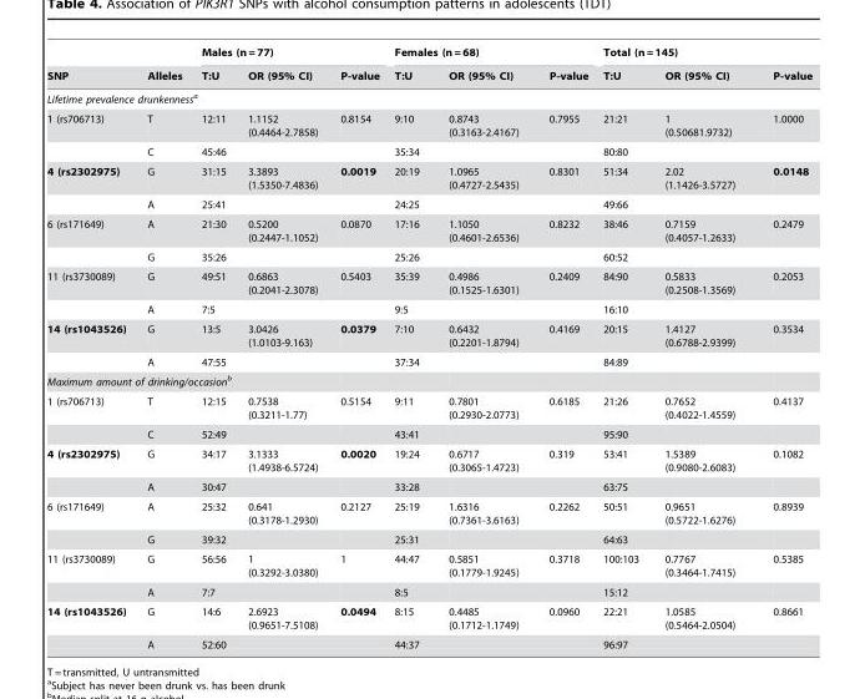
<table><thead><tr><td rowspan="2">SNP</td><td rowspan="2">Alleles</td><td colspan="3">Males (n = 77)</td><td colspan="3">Females (n = 68)</td><td colspan="3">Total (n = 145)</td></tr><tr><td>T:U</td><td>OR (95% CI)</td><td>P-value</td><td>T:U</td><td>OR (95% CI)</td><td>P-value</td><td>T:U</td><td>OR (95% CI)</td><td>P-value</td></tr></thead><tbody><tr><td colspan="11">Lifetime prevalence drunkennessa</td></tr><tr><td rowspan="2">1 (rs706713)</td><td>T</td><td>12:11</td><td>1.1152 (0.4464-2.7858)</td><td>0.8154</td><td>9:10</td><td>0.8743 (0.3163-2.4167)</td><td>0.7955</td><td>21:21</td><td>1 (0.50681.9732)</td><td>1.0000</td></tr><tr><td>C</td><td>45:46</td><td></td><td></td><td>35:34</td><td></td><td></td><td>80:80</td><td></td><td></td></tr><tr><td rowspan="2">4 (rs2302975)</td><td>G</td><td>31:15</td><td>3.3893 (1.5350-7.4836)</td><td>0.0019</td><td>20:19</td><td>1.0965 (0.4727-2.5435)</td><td>0.8301</td><td>51:34</td><td>2.02 (1.1426-3.5727)</td><td>0.0148</td></tr><tr><td>A</td><td>25:41</td><td></td><td></td><td>24:25</td><td></td><td></td><td>49:66</td><td></td><td></td></tr><tr><td rowspan="2">6 (rs171649)</td><td>A</td><td>21:30</td><td>0.5200 (0.2447-1.1052)</td><td>0.0870</td><td>17:16</td><td>1.1050 (0.4601-2.6536)</td><td>0.8232</td><td>38:46</td><td>0.7159 (0.4057-1.2633)</td><td>0.2479</td></tr><tr><td>G</td><td>35:26</td><td></td><td></td><td>25:26</td><td></td><td></td><td>60:52</td><td></td><td></td></tr><tr><td rowspan="2">11 (rs3730089)</td><td>G</td><td>49:51</td><td>0.6863 (0.2041-2.3078)</td><td>0.5403</td><td>35:39</td><td>0.4986 (0.1525-1.6301)</td><td>0.2409</td><td>84:90</td><td>0.5833 (0.2508-1.3569)</td><td>0.2053</td></tr><tr><td>A</td><td>7:5</td><td></td><td></td><td>9:5</td><td></td><td></td><td>16:10</td><td></td><td></td></tr><tr><td rowspan="2">14 (rs1043526)</td><td>G</td><td>13:5</td><td>3.0426 (1.0103-9.163)</td><td>0.0379</td><td>7:10</td><td>0.6432 (0.2201-1.8794)</td><td>0.4169</td><td>20:15</td><td>1.4127 (0.6788-2.9399)</td><td>0.3534</td></tr><tr><td>A</td><td>47:55</td><td></td><td></td><td>37:34</td><td></td><td></td><td>84:89</td><td></td><td></td></tr><tr><td colspan="11">Maximum amount of drinking/occasionb</td></tr><tr><td rowspan="2">1 (rs706713)</td><td>T</td><td>12:15</td><td>0.7538 (0.3211-1.77)</td><td>0.5154</td><td>9:11</td><td>0.7801 (0.2930-2.0773)</td><td>0.6185</td><td>21:26</td><td>0.7652 (0.4022-1.4559)</td><td>0.4137</td></tr><tr><td>C</td><td>52:49</td><td></td><td></td><td>43:41</td><td></td><td></td><td>95:90</td><td></td><td></td></tr><tr><td rowspan="2">4 (rs2302975)</td><td>G</td><td>34:17</td><td>3.1333 (1.4938-6.5724)</td><td>0.0020</td><td>19:24</td><td>0.6717 (0.3065-1.4723)</td><td>0.319</td><td>53:41</td><td>1.5389 (0.9080-2.6083)</td><td>0.1082</td></tr><tr><td>A</td><td>30:47</td><td></td><td></td><td>33:28</td><td></td><td></td><td>63:75</td><td></td><td></td></tr><tr><td rowspan="2">6 (rs171649)</td><td>A</td><td>25:32</td><td>0.641 (0.3178-1.2930)</td><td>0.2127</td><td>25:19</td><td>1.6316 (0.7361-3.6163)</td><td>0.2262</td><td>50:51</td><td>0.9651 (0.5722-1.6276)</td><td>0.8939</td></tr><tr><td>G</td><td>39:32</td><td></td><td></td><td>25:31</td><td></td><td></td><td>64:63</td><td></td><td></td></tr><tr><td rowspan="2">11 (rs3730089)</td><td>G</td><td>56:56</td><td>1 (0.3292-3.0380)</td><td>1</td><td>44:47</td><td>0.5851 (0.1779-1.9245)</td><td>0.3718</td><td>100:103</td><td>0.7767 (0.3464-1.7415)</td><td>0.5385</td></tr><tr><td>A</td><td>7:7</td><td></td><td></td><td>8:5</td><td></td><td></td><td>15:12</td><td></td><td></td></tr><tr><td rowspan="2">14 (rs1043526)</td><td>G</td><td>14:6</td><td>2.6923 (0.9651-7.5108)</td><td>0.0494</td><td>8:15</td><td>0.4485 (0.1712-1.1749)</td><td>0.0960</td><td>22:21</td><td>1.0585 (0.5464-2.0504)</td><td>0.8661</td></tr><tr><td>A</td><td>52:60</td><td></td><td></td><td>44:37</td><td></td><td></td><td>96:97</td><td></td><td></td></tr></tbody></table>